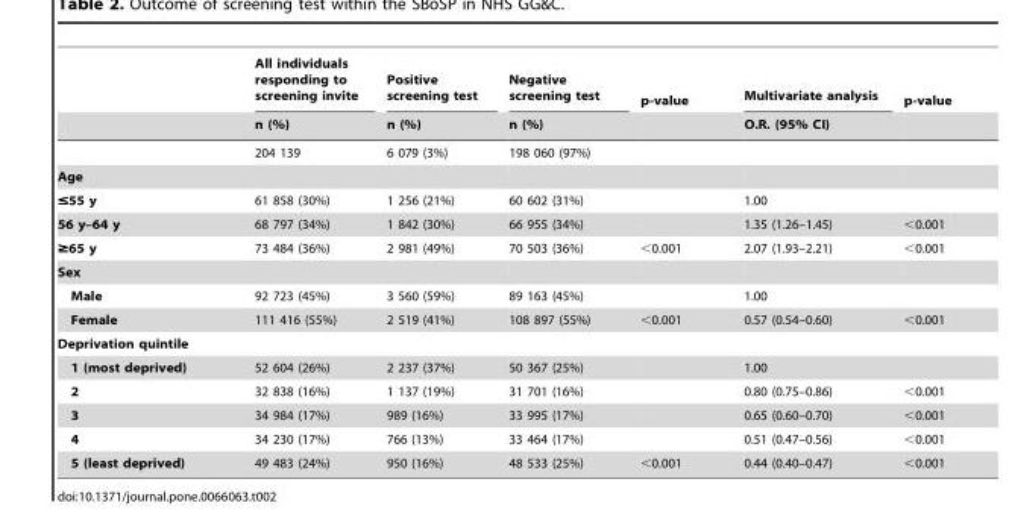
<table><thead><tr><td rowspan="2"></td><td rowspan="2">All individuals responding to screening invite n (%)</td><td rowspan="2">Positive screening test n (%)</td><td rowspan="2">Negative screening test n (%)</td><td rowspan="2">p-value</td><td rowspan="2">Multivariate analysis O.R. (95% CI)</td><td rowspan="2">p-value</td></tr><tr></tr></thead><tbody><tr><td></td><td>204 139</td><td>6 079 (3%)</td><td>198 060 (97%)</td><td></td><td></td><td></td></tr><tr><td colspan="7">Age</td></tr><tr><td>≤55 y</td><td>61 858 (30%)</td><td>1 256 (21%)</td><td>60 602 (31%)</td><td></td><td>1.00</td><td></td></tr><tr><td>56 y–64 y</td><td>68 797 (34%)</td><td>1 842 (30%)</td><td>66 955 (34%)</td><td></td><td>1.35 (1.26–1.45)</td><td>&lt;0.001</td></tr><tr><td>≥65 y</td><td>73 484 (36%)</td><td>2 981 (49%)</td><td>70 503 (36%)</td><td>&lt;0.001</td><td>2.07 (1.93–2.21)</td><td>&lt;0.001</td></tr><tr><td colspan="7">Sex</td></tr><tr><td>Male</td><td>92 723 (45%)</td><td>3 560 (59%)</td><td>89 163 (45%)</td><td></td><td>1.00</td><td></td></tr><tr><td>Female</td><td>111 416 (55%)</td><td>2 519 (41%)</td><td>108 897 (55%)</td><td>&lt;0.001</td><td>0.57 (0.54–0.60)</td><td>&lt;0.001</td></tr><tr><td colspan="7">Deprivation quintile</td></tr><tr><td>1 (most deprived)</td><td>52 604 (26%)</td><td>2 237 (37%)</td><td>50 367 (25%)</td><td></td><td>1.00</td><td></td></tr><tr><td>2</td><td>32 838 (16%)</td><td>1 137 (19%)</td><td>31 701 (16%)</td><td></td><td>0.80 (0.75–0.86)</td><td>&lt;0.001</td></tr><tr><td>3</td><td>34 984 (17%)</td><td>989 (16%)</td><td>33 995 (17%)</td><td></td><td>0.65 (0.60–0.70)</td><td>&lt;0.001</td></tr><tr><td>4</td><td>34 230 (17%)</td><td>766 (13%)</td><td>33 464 (17%)</td><td></td><td>0.51 (0.47–0.56)</td><td>&lt;0.001</td></tr><tr><td>5 (least deprived)</td><td>49 483 (24%)</td><td>950 (16%)</td><td>48 533 (25%)</td><td>&lt;0.001</td><td>0.44 (0.40–0.47)</td><td>&lt;0.001</td></tr></tbody></table>